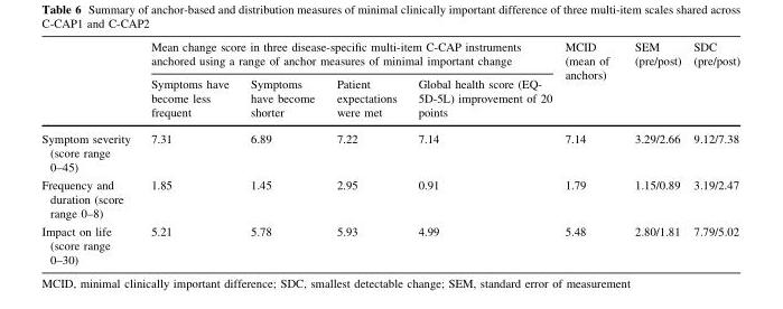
<table><thead><tr><td rowspan="2"></td><td colspan="4">Mean change score in three disease-specific multi-item C-CAP instruments anchored using a range of anchor measures of minimal important change</td><td rowspan="2">MCID (mean of anchors)</td><td rowspan="2">SEM (pre/post)</td><td rowspan="2">SDC (pre/post)</td></tr><tr><td>Symptoms have become less frequent</td><td>Symptoms have become shorter</td><td>Patient expectations were met</td><td>Global health score (EQ- 5D-5L) improvement of 20 points</td></tr></thead><tbody><tr><td>Symptom severity (score range 0–45)</td><td>7.31</td><td>6.89</td><td>7.22</td><td>7.14</td><td>7.14</td><td>3.29/2.66</td><td>9.12/7.38</td></tr><tr><td>Frequency and duration (score range 0–8)</td><td>1.85</td><td>1.45</td><td>2.95</td><td>0.91</td><td>1.79</td><td>1.15/0.89</td><td>3.19/2.47</td></tr><tr><td>Impact on life (score range 0–30)</td><td>5.21</td><td>5.78</td><td>5.93</td><td>4.99</td><td>5.48</td><td>2.80/1.81</td><td>7.79/5.02</td></tr></tbody></table>